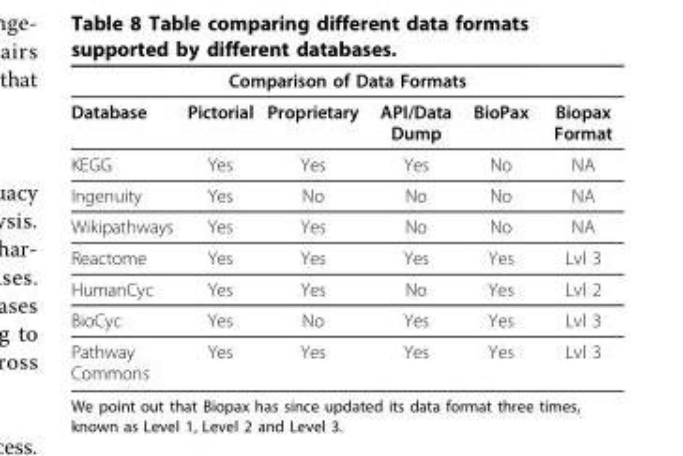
<table><thead><tr><td colspan="6">Comparison of Data Formats</td></tr><tr><td>Database</td><td>Pictorial</td><td>Proprietary</td><td>API/Data Dump</td><td>BioPax</td><td>Biopax Format</td></tr></thead><tbody><tr><td>KEGG</td><td>Yes</td><td>Yes</td><td>Yes</td><td>No</td><td>NA</td></tr><tr><td>Ingenuity</td><td>Yes</td><td>No</td><td>No</td><td>No</td><td>NA</td></tr><tr><td>Wikipathways</td><td>Yes</td><td>Yes</td><td>No</td><td>No</td><td>NA</td></tr><tr><td>Reactome</td><td>Yes</td><td>Yes</td><td>Yes</td><td>Yes</td><td>Lvl 3</td></tr><tr><td>HumanCyc</td><td>Yes</td><td>Yes</td><td>No</td><td>Yes</td><td>Lvl 2</td></tr><tr><td>BioCyc</td><td>Yes</td><td>No</td><td>Yes</td><td>Yes</td><td>Lvl 3</td></tr><tr><td>Pathway Commons</td><td>Yes</td><td>Yes</td><td>Yes</td><td>Yes</td><td>Lvl 3</td></tr></tbody></table>